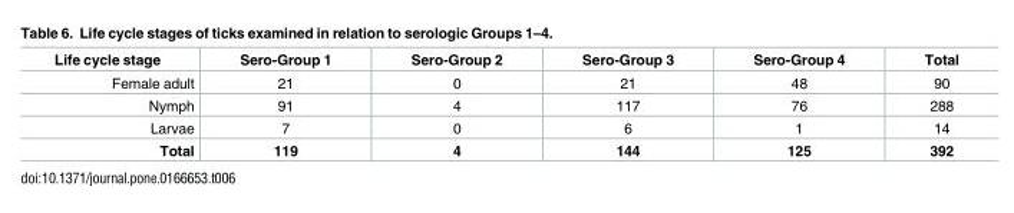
<table><thead><tr><td>Life cycle stage</td><td>Sero-Group 1</td><td>Sero-Group 2</td><td>Sero-Group 3</td><td>Sero-Group 4</td><td>Total</td></tr></thead><tbody><tr><td>Female adult</td><td>21</td><td>0</td><td>21</td><td>48</td><td>90</td></tr><tr><td>Nymph</td><td>91</td><td>4</td><td>117</td><td>76</td><td>288</td></tr><tr><td>Larvae</td><td>7</td><td>0</td><td>6</td><td>1</td><td>14</td></tr><tr><td>Total</td><td>119</td><td>4</td><td>144</td><td>125</td><td>392</td></tr></tbody></table>